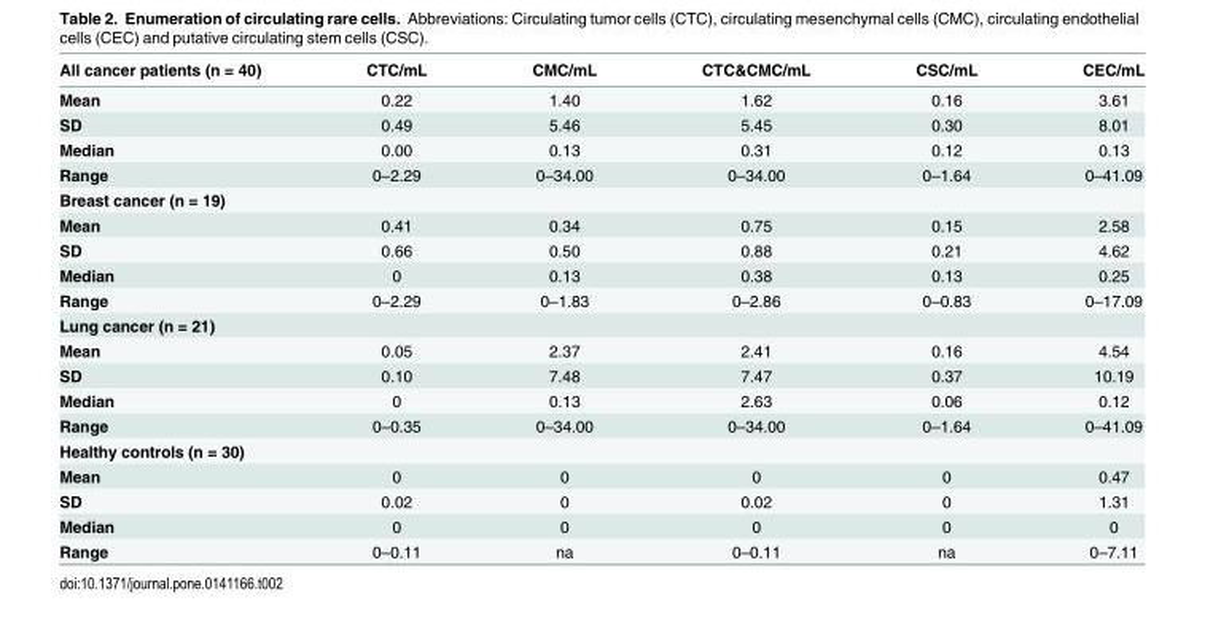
<table><thead><tr><td>All cancer patients (n = 40)</td><td>CTC/mL</td><td>CMC/mL</td><td>CTC&amp;CMC/mL</td><td>CSC/mL</td><td>CEC/mL</td></tr></thead><tbody><tr><td>Mean</td><td>0.22</td><td>1.40</td><td>1.62</td><td>0.16</td><td>3.61</td></tr><tr><td>SD</td><td>0.49</td><td>5.46</td><td>5.45</td><td>0.30</td><td>8.01</td></tr><tr><td>Median</td><td>0.00</td><td>0.13</td><td>0.31</td><td>0.12</td><td>0.13</td></tr><tr><td>Range</td><td>0–2.29</td><td>0–34.00</td><td>0–34.00</td><td>0–1.64</td><td>0–41.09</td></tr><tr><td colspan="6">Breast cancer (n = 19)</td></tr><tr><td>Mean</td><td>0.41</td><td>0.34</td><td>0.75</td><td>0.15</td><td>2.58</td></tr><tr><td>SD</td><td>0.66</td><td>0.50</td><td>0.88</td><td>0.21</td><td>4.62</td></tr><tr><td>Median</td><td>0</td><td>0.13</td><td>0.38</td><td>0.13</td><td>0.25</td></tr><tr><td>Range</td><td>0–2.29</td><td>0–1.83</td><td>0–2.86</td><td>0–0.83</td><td>0–17.09</td></tr><tr><td colspan="6">Lung cancer (n = 21)</td></tr><tr><td>Mean</td><td>0.05</td><td>2.37</td><td>2.41</td><td>0.16</td><td>4.54</td></tr><tr><td>SD</td><td>0.10</td><td>7.48</td><td>7.47</td><td>0.37</td><td>10.19</td></tr><tr><td>Median</td><td>0</td><td>0.13</td><td>2.63</td><td>0.06</td><td>0.12</td></tr><tr><td>Range</td><td>0–0.35</td><td>0–34.00</td><td>0–34.00</td><td>0–1.64</td><td>0–41.09</td></tr><tr><td colspan="6">Healthy controls (n = 30)</td></tr><tr><td>Mean</td><td>0</td><td>0</td><td>0</td><td>0</td><td>0.47</td></tr><tr><td>SD</td><td>0.02</td><td>0</td><td>0.02</td><td>0</td><td>1.31</td></tr><tr><td>Median</td><td>0</td><td>0</td><td>0</td><td>0</td><td>0</td></tr><tr><td>Range</td><td>0–0.11</td><td>na</td><td>0–0.11</td><td>na</td><td>0–7.11</td></tr></tbody></table>